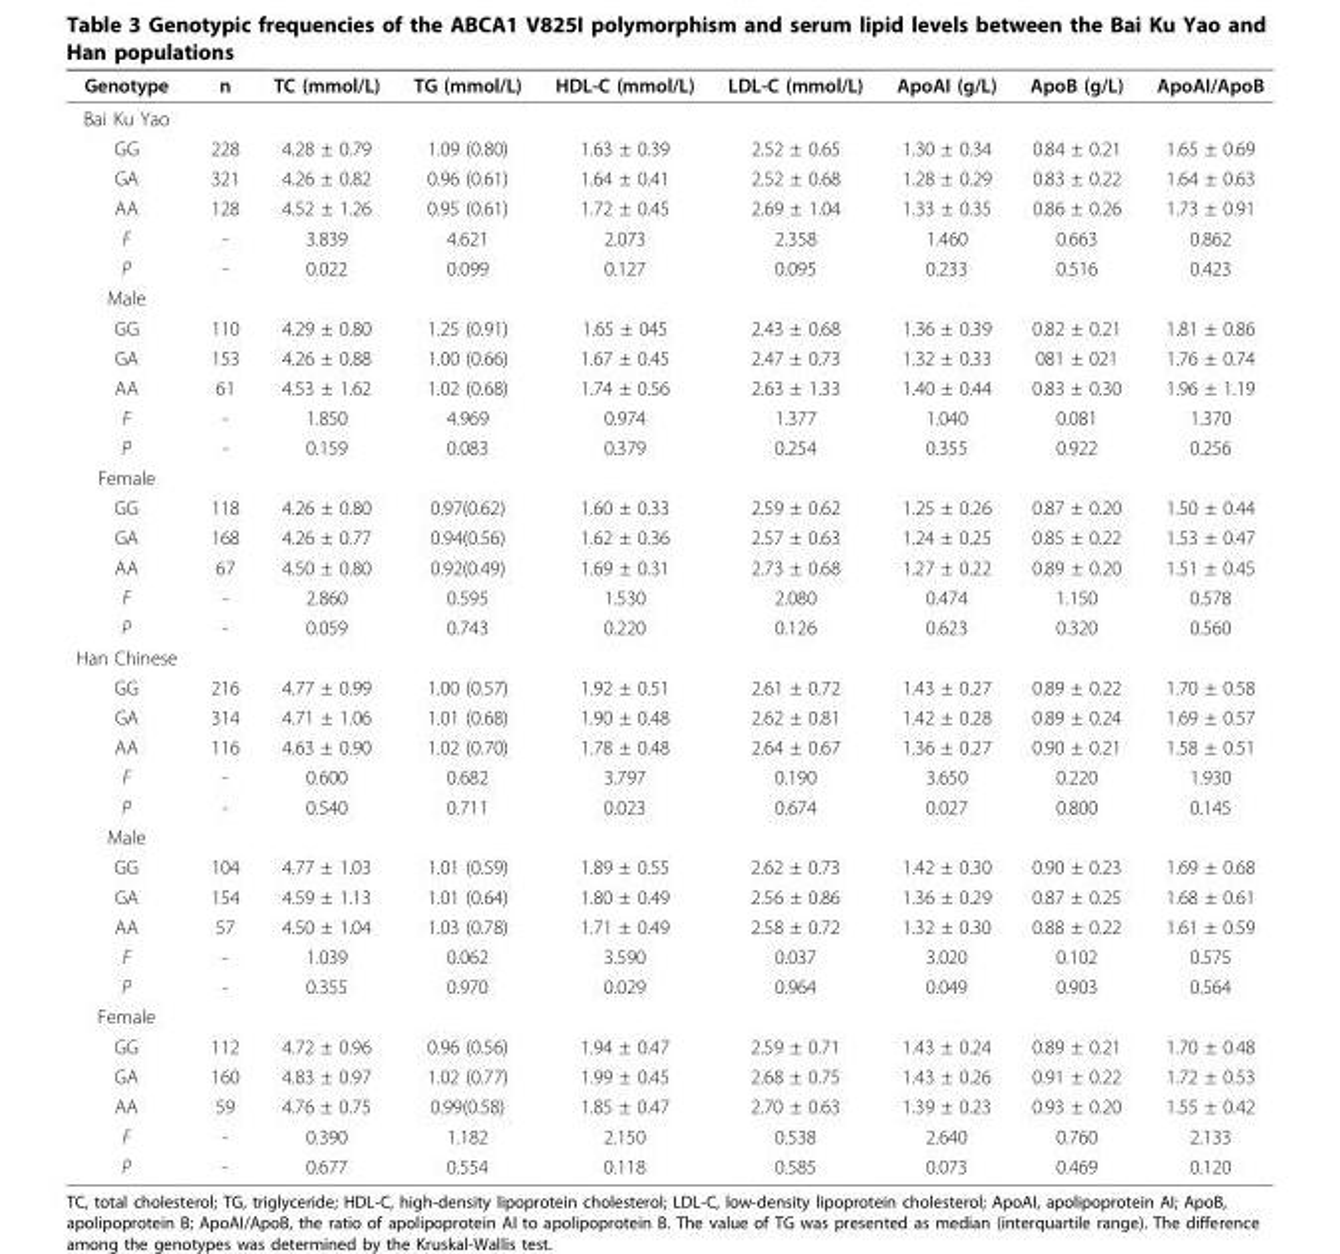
<table><thead><tr><td>Genotype</td><td>n</td><td>TC (mmol/L)</td><td>TG (mmol/L)</td><td>HDL-C (mmol/L)</td><td>LDL-C (mmol/L)</td><td>ApoAI (g/L)</td><td>ApoB (g/L)</td><td>ApoAI/ApoB</td></tr></thead><tbody><tr><td colspan="9">Bai Ku Yao</td></tr><tr><td>GG</td><td>228</td><td>4.28 ± 0.79</td><td>1.09 (0.80)</td><td>1.63 ± 0.39</td><td>2.52 ± 0.65</td><td>1.30 ± 0.34</td><td>0.84 ± 0.21</td><td>1.65 ± 0.69</td></tr><tr><td>GA</td><td>321</td><td>4.26 ± 0.82</td><td>0.96 (0.61)</td><td>1.64 ± 0.41</td><td>2.52 ± 0.68</td><td>1.28 ± 0.29</td><td>0.83 ± 0.22</td><td>1.64 ± 0.63</td></tr><tr><td>AA</td><td>128</td><td>4.52 ± 1.26</td><td>0.95 (0.61)</td><td>1.72 ± 0.45</td><td>2.69 ± 1.04</td><td>1.33 ± 0.35</td><td>0.86 ± 0.26</td><td>1.73 ± 0.91</td></tr><tr><td>F</td><td>-</td><td>3.839</td><td>4.621</td><td>2.073</td><td>2.358</td><td>1.460</td><td>0.663</td><td>0.862</td></tr><tr><td>P</td><td>-</td><td>0.022</td><td>0.099</td><td>0.127</td><td>0.095</td><td>0.233</td><td>0.516</td><td>0.423</td></tr><tr><td colspan="9">Male</td></tr><tr><td>GG</td><td>110</td><td>4.29 ± 0.80</td><td>1.25 (0.91)</td><td>1.65 ± 045</td><td>2.43 ± 0.68</td><td>1.36 ± 0.39</td><td>0.82 ± 0.21</td><td>1.81 ± 0.86</td></tr><tr><td>GA</td><td>153</td><td>4.26 ± 0.88</td><td>1.00 (0.66)</td><td>1.67 ± 0.45</td><td>2.47 ± 0.73</td><td>1.32 ± 0.33</td><td>081 ± 021</td><td>1.76 ± 0.74</td></tr><tr><td>AA</td><td>61</td><td>4.53 ± 1.62</td><td>1.02 (0.68)</td><td>1.74 ± 0.56</td><td>2.63 ± 1.33</td><td>1.40 ± 0.44</td><td>0.83 ± 0.30</td><td>1.96 ± 1.19</td></tr><tr><td>F</td><td>-</td><td>1.850</td><td>4.969</td><td>0.974</td><td>1.377</td><td>1.040</td><td>0.081</td><td>1.370</td></tr><tr><td>P</td><td>-</td><td>0.159</td><td>0.083</td><td>0.379</td><td>0.254</td><td>0.355</td><td>0.922</td><td>0.256</td></tr><tr><td colspan="9">Female</td></tr><tr><td>GG</td><td>118</td><td>4.26 ± 0.80</td><td>0.97(0.62)</td><td>1.60 ± 0.33</td><td>2.59 ± 0.62</td><td>1.25 ± 0.26</td><td>0.87 ± 0.20</td><td>1.50 ± 0.44</td></tr><tr><td>GA</td><td>168</td><td>4.26 ± 0.77</td><td>0.94(0.56)</td><td>1.62 ± 0.36</td><td>2.57 ± 0.63</td><td>1.24 ± 0.25</td><td>0.85 ± 0.22</td><td>1.53 ± 0.47</td></tr><tr><td>AA</td><td>67</td><td>4.50 ± 0.80</td><td>0.92(0.49)</td><td>1.69 ± 0.31</td><td>2.73 ± 0.68</td><td>1.27 ± 0.22</td><td>0.89 ± 0.20</td><td>1.51 ± 0.45</td></tr><tr><td>F</td><td>-</td><td>2.860</td><td>0.595</td><td>1.530</td><td>2.080</td><td>0.474</td><td>1.150</td><td>0.578</td></tr><tr><td>P</td><td>-</td><td>0.059</td><td>0.743</td><td>0.220</td><td>0.126</td><td>0.623</td><td>0.320</td><td>0.560</td></tr><tr><td colspan="9">Han Chinese</td></tr><tr><td>GG</td><td>216</td><td>4.77 ± 0.99</td><td>1.00 (0.57)</td><td>1.92 ± 0.51</td><td>2.61 ± 0.72</td><td>1.43 ± 0.27</td><td>0.89 ± 0.22</td><td>1.70 ± 0.58</td></tr><tr><td>GA</td><td>314</td><td>4.71 ± 1.06</td><td>1.01 (0.68)</td><td>1.90 ± 0.48</td><td>2.62 ± 0.81</td><td>1.42 ± 0.28</td><td>0.89 ± 0.24</td><td>1.69 ± 0.57</td></tr><tr><td>AA</td><td>116</td><td>4.63 ± 0.90</td><td>1.02 (0.70)</td><td>1.78 ± 0.48</td><td>2.64 ± 0.67</td><td>1.36 ± 0.27</td><td>0.90 ± 0.21</td><td>1.58 ± 0.51</td></tr><tr><td>F</td><td>-</td><td>0.600</td><td>0.682</td><td>3.797</td><td>0.190</td><td>3.650</td><td>0.220</td><td>1.930</td></tr><tr><td>P</td><td>-</td><td>0.540</td><td>0.711</td><td>0.023</td><td>0.674</td><td>0.027</td><td>0.800</td><td>0.145</td></tr><tr><td colspan="9">Male</td></tr><tr><td>GG</td><td>104</td><td>4.77 ± 1.03</td><td>1.01 (0.59)</td><td>1.89 ± 0.55</td><td>2.62 ± 0.73</td><td>1.42 ± 0.30</td><td>0.90 ± 0.23</td><td>1.69 ± 0.68</td></tr><tr><td>GA</td><td>154</td><td>4.59 ± 1.13</td><td>1.01 (0.64)</td><td>1.80 ± 0.49</td><td>2.56 ± 0.86</td><td>1.36 ± 0.29</td><td>0.87 ± 0.25</td><td>1.68 ± 0.61</td></tr><tr><td>AA</td><td>57</td><td>4.50 ± 1.04</td><td>1.03 (0.78)</td><td>1.71 ± 0.49</td><td>2.58 ± 0.72</td><td>1.32 ± 0.30</td><td>0.88 ± 0.22</td><td>1.61 ± 0.59</td></tr><tr><td>F</td><td>-</td><td>1.039</td><td>0.062</td><td>3.590</td><td>0.037</td><td>3.020</td><td>0.102</td><td>0.575</td></tr><tr><td>P</td><td>-</td><td>0.355</td><td>0.970</td><td>0.029</td><td>0.964</td><td>0.049</td><td>0.903</td><td>0.564</td></tr><tr><td colspan="9">Female</td></tr><tr><td>GG</td><td>112</td><td>4.72 ± 0.96</td><td>0.96 (0.56)</td><td>1.94 ± 0.47</td><td>2.59 ± 0.71</td><td>1.43 ± 0.24</td><td>0.89 ± 0.21</td><td>1.70 ± 0.48</td></tr><tr><td>GA</td><td>160</td><td>4.83 ± 0.97</td><td>1.02 (0.77)</td><td>1.99 ± 0.45</td><td>2.68 ± 0.75</td><td>1.43 ± 0.26</td><td>0.91 ± 0.22</td><td>1.72 ± 0.53</td></tr><tr><td>AA</td><td>59</td><td>4.76 ± 0.75</td><td>0.99(0.58)</td><td>1.85 ± 0.47</td><td>2.70 ± 0.63</td><td>1.39 ± 0.23</td><td>0.93 ± 0.20</td><td>1.55 ± 0.42</td></tr><tr><td>F</td><td>-</td><td>0.390</td><td>1.182</td><td>2.150</td><td>0.538</td><td>2.640</td><td>0.760</td><td>2.133</td></tr><tr><td>P</td><td>-</td><td>0.677</td><td>0.554</td><td>0.118</td><td>0.585</td><td>0.073</td><td>0.469</td><td>0.120</td></tr></tbody></table>